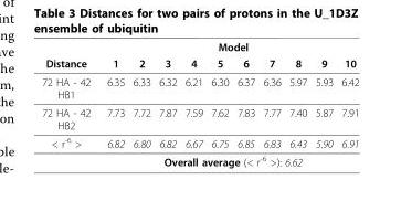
<table><thead><tr><td rowspan="2">Distance</td><td colspan="10">Model</td></tr><tr><td>1</td><td>2</td><td>3</td><td>4</td><td>5</td><td>6</td><td>7</td><td>8</td><td>9</td><td>10</td></tr></thead><tbody><tr><td>72 HA - 42 HB1</td><td>6.35</td><td>6.33</td><td>6.32</td><td>6.21</td><td>6.30</td><td>6.37</td><td>6.36</td><td>5.97</td><td>5.93</td><td>6.42</td></tr><tr><td>72 HA - 42 HB2</td><td>7.73</td><td>7.72</td><td>7.87</td><td>7.59</td><td>7.62</td><td>7.83</td><td>7.77</td><td>7.40</td><td>5.87</td><td>7.91</td></tr><tr><td rowspan="2">&lt; r<sup>-6</sup> &gt;</td><td>6.82</td><td>6.80</td><td>6.82</td><td>6.67</td><td>6.75</td><td>6.85</td><td>6.83</td><td>6.43</td><td>5.90</td><td>6.91</td></tr><tr><td colspan="10">Overall average (&lt; r<sup>-6</sup> &gt;): 6.62</td></tr></tbody></table>